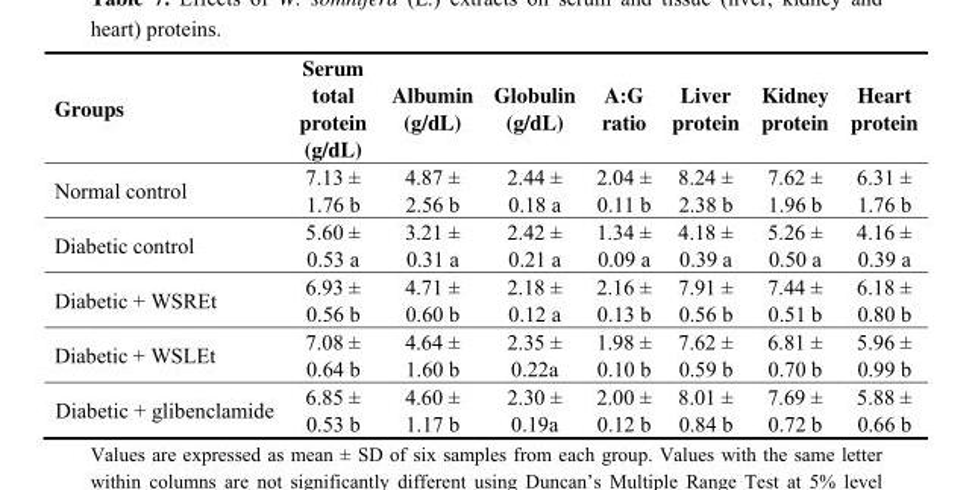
<table><thead><tr><td>Groups</td><td>Serum total protein (g/dL)</td><td>Albumin (g/dL)</td><td>Globulin (g/dL)</td><td>A:G ratio</td><td>Liver protein</td><td>Kidney protein</td><td>Heart protein</td></tr></thead><tbody><tr><td>Normal control</td><td>7.13 ± 1.76 b</td><td>4.87 ± 2.56 b</td><td>2.44 ± 0.18 a</td><td>2.04 ± 0.11 b</td><td>8.24 ± 2.38 b</td><td>7.62 ± 1.96 b</td><td>6.31 ± 1.76 b</td></tr><tr><td>Diabetic control</td><td>5.60 ± 0.53 a</td><td>3.21 ± 0.31 a</td><td>2.42 ± 0.21 a</td><td>1.34 ± 0.09 a</td><td>4.18 ± 0.39 a</td><td>5.26 ± 0.50 a</td><td>4.16 ± 0.39 a</td></tr><tr><td>Diabetic + WSREt</td><td>6.93 ± 0.56 b</td><td>4.71 ± 0.60 b</td><td>2.18 ± 0.12 a</td><td>2.16 ± 0.13 b</td><td>7.91 ± 0.56 b</td><td>7.44 ± 0.51 b</td><td>6.18 ± 0.80 b</td></tr><tr><td>Diabetic + WSLEt</td><td>7.08 ± 0.64 b</td><td>4.64 ± 1.60 b</td><td>2.35 ± 0.22a</td><td>1.98 ± 0.10 b</td><td>7.62 ± 0.59 b</td><td>6.81 ± 0.70 b</td><td>5.96 ± 0.99 b</td></tr><tr><td>Diabetic + glibenclamide</td><td>6.85 ± 0.53 b</td><td>4.60 ± 1.17 b</td><td>2.30 ± 0.19a</td><td>2.00 ± 0.12 b</td><td>8.01 ± 0.84 b</td><td>7.69 ± 0.72 b</td><td>5.88 ± 0.66 b</td></tr></tbody></table>